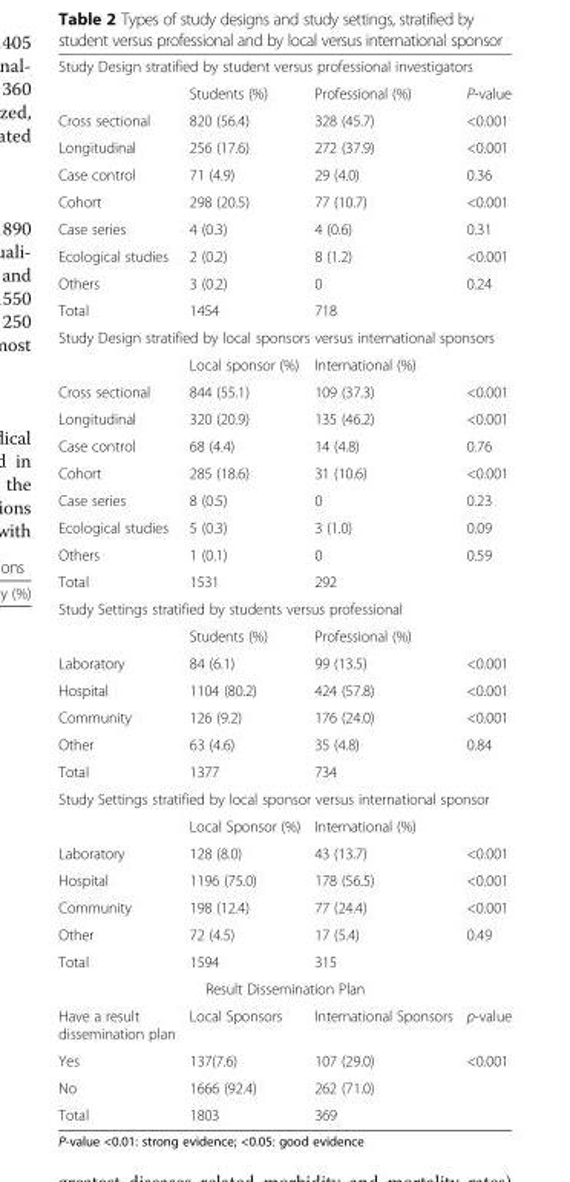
<table><tbody><tr><td colspan="4">Study Design stratified by student versus professional investigators</td></tr><tr><td></td><td>Students (%)</td><td>Professional (%)</td><td>P-value</td></tr><tr><td>Cross sectional</td><td>820 (56.4)</td><td>328 (45.7)</td><td>&lt;0.001</td></tr><tr><td>Longitudinal</td><td>256 (17.6)</td><td>272 (37.9)</td><td>&lt;0.001</td></tr><tr><td>Case control</td><td>71 (4.9)</td><td>29 (4.0)</td><td>0.36</td></tr><tr><td>Cohort</td><td>298 (20.5)</td><td>77 (10.7)</td><td>&lt;0.001</td></tr><tr><td>Case series</td><td>4 (0.3)</td><td>4 (0.6)</td><td>0.31</td></tr><tr><td>Ecological studies</td><td>2 (0.2)</td><td>8 (1.2)</td><td>&lt;0.001</td></tr><tr><td>Others</td><td>3 (0.2)</td><td>0</td><td>0.24</td></tr><tr><td>Total</td><td>1454</td><td>718</td><td></td></tr><tr><td colspan="4">Study Design stratified by local sponsors versus international sponsors</td></tr><tr><td></td><td>Local sponsor (%)</td><td>International (%)</td><td></td></tr><tr><td>Cross sectional</td><td>844 (55.1)</td><td>109 (37.3)</td><td>&lt;0.001</td></tr><tr><td>Longitudinal</td><td>320 (20.9)</td><td>135 (46.2)</td><td>&lt;0.001</td></tr><tr><td>Case control</td><td>68 (4.4)</td><td>14 (4.8)</td><td>0.76</td></tr><tr><td>Cohort</td><td>285 (18.6)</td><td>31 (10.6)</td><td>&lt;0.001</td></tr><tr><td>Case series</td><td>8 (0.5)</td><td>0</td><td>0.23</td></tr><tr><td>Ecological studies</td><td>5 (0.3)</td><td>3 (1.0)</td><td>0.09</td></tr><tr><td>Others</td><td>1 (0.1)</td><td>0</td><td>0.59</td></tr><tr><td>Total</td><td>1531</td><td>292</td><td></td></tr><tr><td colspan="4">Study Settings stratified by students versus professional</td></tr><tr><td></td><td>Students (%)</td><td>Professional (%)</td><td></td></tr><tr><td>Laboratory</td><td>84 (6.1)</td><td>99 (13.5)</td><td>&lt;0.001</td></tr><tr><td>Hospital</td><td>1104 (80.2)</td><td>424 (57.8)</td><td>&lt;0.001</td></tr><tr><td>Community</td><td>126 (9.2)</td><td>176 (24.0)</td><td>&lt;0.001</td></tr><tr><td>Other</td><td>63 (4.6)</td><td>35 (4.8)</td><td>0.84</td></tr><tr><td>Total</td><td>1377</td><td>734</td><td></td></tr><tr><td colspan="4">Study Settings stratified by local sponsor versus international sponsor</td></tr><tr><td></td><td>Local Sponsor (%)</td><td>International (%)</td><td></td></tr><tr><td>Laboratory</td><td>128 (8.0)</td><td>43 (13.7)</td><td>&lt;0.001</td></tr><tr><td>Hospital</td><td>1196 (75.0)</td><td>178 (56.5)</td><td>&lt;0.001</td></tr><tr><td>Community</td><td>198 (12.4)</td><td>77 (24.4)</td><td>&lt;0.001</td></tr><tr><td>Other</td><td>72 (4.5)</td><td>17 (5.4)</td><td>0.49</td></tr><tr><td>Total</td><td>1594</td><td>315</td><td></td></tr><tr><td colspan="4">Result Dissemination Plan</td></tr><tr><td>Have a result dissemination plan</td><td>Local Sponsors</td><td>International Sponsors</td><td>p-value</td></tr><tr><td>Yes</td><td>137(7.6)</td><td>107 (29.0)</td><td rowspan="3">&lt;0.001</td></tr><tr><td>No</td><td>1666 (92.4)</td><td>262 (71.0)</td></tr><tr><td>Total</td><td>1803</td><td>369</td></tr></tbody></table>